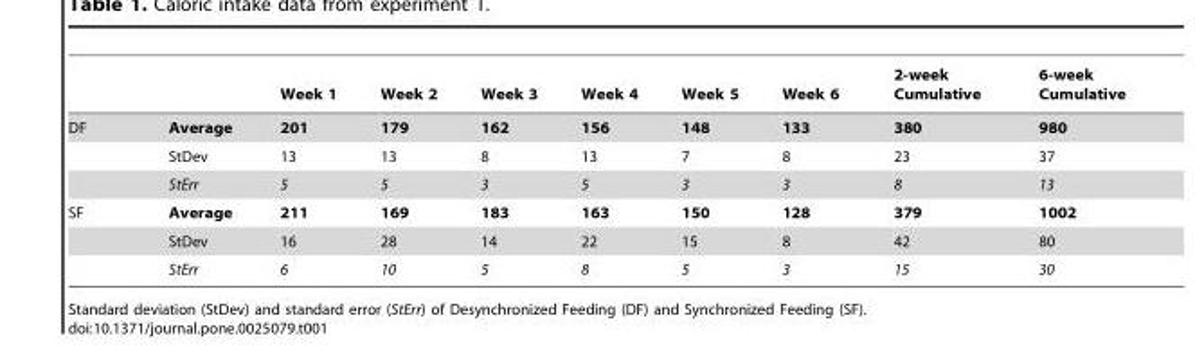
<table><thead><tr><td></td><td></td><td>Week 1</td><td>Week 2</td><td>Week 3</td><td>Week 4</td><td>Week 5</td><td>Week 6</td><td>2-week Cumulative</td><td>6-week Cumulative</td></tr></thead><tbody><tr><td rowspan="3">DF</td><td>Average</td><td>201</td><td>179</td><td>162</td><td>156</td><td>148</td><td>133</td><td>380</td><td>980</td></tr><tr><td>StDev</td><td>13</td><td>13</td><td>8</td><td>13</td><td>7</td><td>8</td><td>23</td><td>37</td></tr><tr><td>StErr</td><td>5</td><td>5</td><td>3</td><td>5</td><td>3</td><td>3</td><td>8</td><td>13</td></tr><tr><td rowspan="3">SF</td><td>Average</td><td>211</td><td>169</td><td>183</td><td>163</td><td>150</td><td>128</td><td>379</td><td>1002</td></tr><tr><td>StDev</td><td>16</td><td>28</td><td>14</td><td>22</td><td>15</td><td>8</td><td>42</td><td>80</td></tr><tr><td>StErr</td><td>6</td><td>10</td><td>5</td><td>8</td><td>5</td><td>3</td><td>15</td><td>30</td></tr></tbody></table>